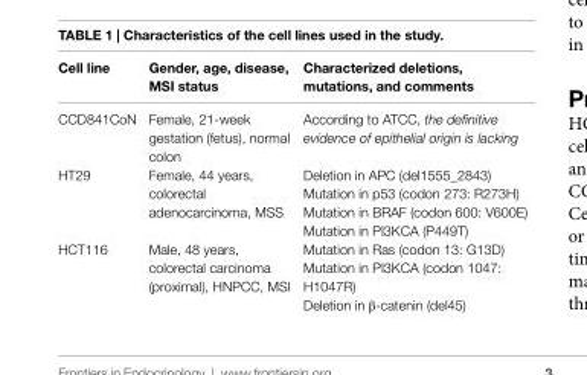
<table><thead><tr><td>cell line</td><td>gender, age, disease, Msi status</td><td>characterized deletions, mutations, and comments</td></tr></thead><tbody><tr><td>CCD841CoN</td><td>Female, 21-week gestation (fetus), normal colon</td><td>According to ATCC, the definitive evidence of epithelial origin is lacking</td></tr><tr><td rowspan="4">HT29</td><td rowspan="4">Female, 44 years, colorectal adenocarcinoma, MSS</td><td>Deletion in APC (del1555_2843)</td></tr><tr><td>Mutation in p53 (codon 273: R273H)</td></tr><tr><td>Mutation in BRAF (codon 600: V600E)</td></tr><tr><td>Mutation in PI3KCA (P449T)</td></tr><tr><td rowspan="3">HCT116</td><td rowspan="3">Male, 48 years, colorectal carcinoma (proximal), HNPCC, MSI</td><td>Mutation in Ras (codon 13: G13D)</td></tr><tr><td>Mutation in PI3KCA (codon 1047: H1047R)</td></tr><tr><td>Deletion in β-catenin (del45)</td></tr></tbody></table>